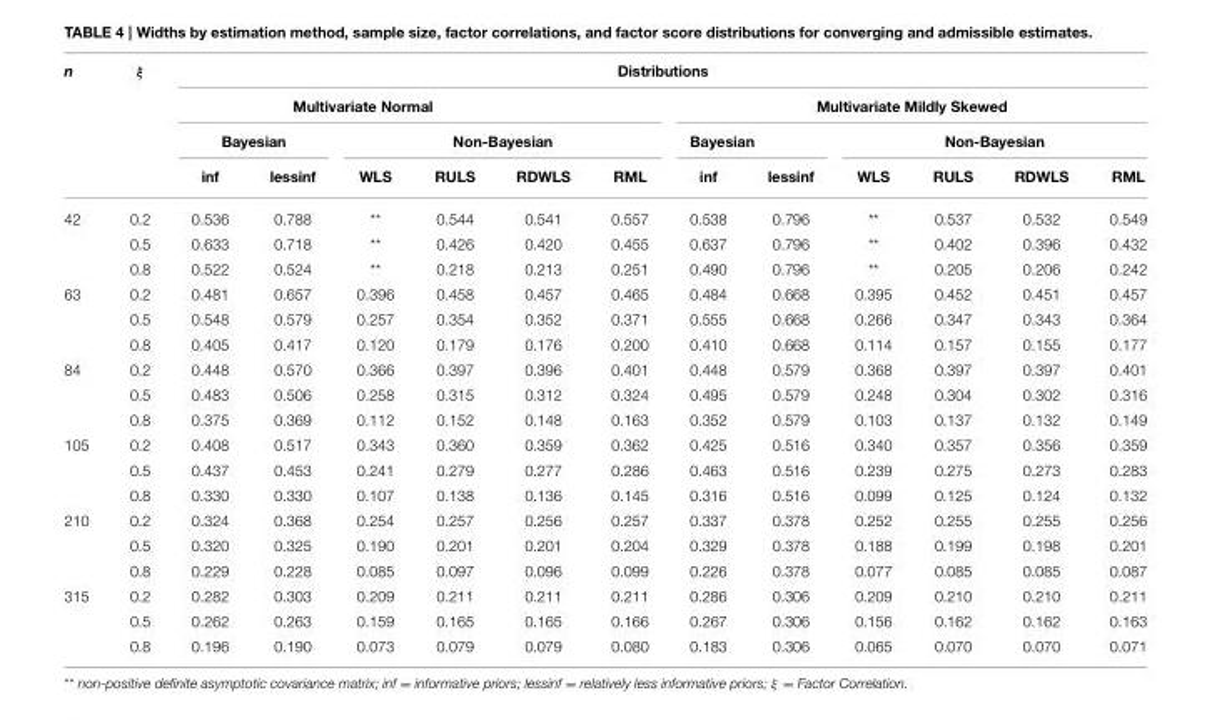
<table><thead><tr><td rowspan="4">n</td><td rowspan="4">ξ</td><td colspan="12">Distributions</td></tr><tr><td colspan="6">Multivariate Normal</td><td colspan="6">Multivariate Mildly Skewed</td></tr><tr><td colspan="2">Bayesian</td><td colspan="4">Non-Bayesian</td><td colspan="2">Bayesian</td><td colspan="4">Non-Bayesian</td></tr><tr><td>inf</td><td>lessinf</td><td>WLS</td><td>RULS</td><td>RDWLS</td><td>RML</td><td>inf</td><td>lessinf</td><td>WLS</td><td>RULS</td><td>RDWLS</td><td>RML</td></tr></thead><tbody><tr><td rowspan="3">42</td><td>0.2</td><td>0.536</td><td>0.788</td><td>**</td><td>0.544</td><td>0.541</td><td>0.557</td><td>0.538</td><td>0.796</td><td>**</td><td>0.537</td><td>0.532</td><td>0.549</td></tr><tr><td>0.5</td><td>0.633</td><td>0.718</td><td>**</td><td>0.426</td><td>0.420</td><td>0.455</td><td>0.637</td><td>0.796</td><td>**</td><td>0.402</td><td>0.396</td><td>0.432</td></tr><tr><td>0.8</td><td>0.522</td><td>0.524</td><td>**</td><td>0.218</td><td>0.213</td><td>0.251</td><td>0.490</td><td>0.796</td><td>**</td><td>0.205</td><td>0.206</td><td>0.242</td></tr><tr><td rowspan="3">63</td><td>0.2</td><td>0.481</td><td>0.657</td><td>0.396</td><td>0.458</td><td>0.457</td><td>0.465</td><td>0.484</td><td>0.668</td><td>0.395</td><td>0.452</td><td>0.451</td><td>0.457</td></tr><tr><td>0.5</td><td>0.548</td><td>0.579</td><td>0.257</td><td>0.354</td><td>0.352</td><td>0.371</td><td>0.555</td><td>0.668</td><td>0.266</td><td>0.347</td><td>0.343</td><td>0.364</td></tr><tr><td>0.8</td><td>0.405</td><td>0.417</td><td>0.120</td><td>0.179</td><td>0.176</td><td>0.200</td><td>0.410</td><td>0.668</td><td>0.114</td><td>0.157</td><td>0.155</td><td>0.177</td></tr><tr><td rowspan="3">84</td><td>0.2</td><td>0.448</td><td>0.570</td><td>0.366</td><td>0.397</td><td>0.396</td><td>0.401</td><td>0.448</td><td>0.579</td><td>0.368</td><td>0.397</td><td>0.397</td><td>0.401</td></tr><tr><td>0.5</td><td>0.483</td><td>0.506</td><td>0.258</td><td>0.315</td><td>0.312</td><td>0.324</td><td>0.495</td><td>0.579</td><td>0.248</td><td>0.304</td><td>0.302</td><td>0.316</td></tr><tr><td>0.8</td><td>0.375</td><td>0.369</td><td>0.112</td><td>0.152</td><td>0.148</td><td>0.163</td><td>0.352</td><td>0.579</td><td>0.103</td><td>0.137</td><td>0.132</td><td>0.149</td></tr><tr><td rowspan="3">105</td><td>0.2</td><td>0.408</td><td>0.517</td><td>0.343</td><td>0.360</td><td>0.359</td><td>0.362</td><td>0.425</td><td>0.516</td><td>0.340</td><td>0.357</td><td>0.356</td><td>0.359</td></tr><tr><td>0.5</td><td>0.437</td><td>0.453</td><td>0.241</td><td>0.279</td><td>0.277</td><td>0.286</td><td>0.463</td><td>0.516</td><td>0.239</td><td>0.275</td><td>0.273</td><td>0.283</td></tr><tr><td>0.8</td><td>0.330</td><td>0.330</td><td>0.107</td><td>0.138</td><td>0.136</td><td>0.145</td><td>0.316</td><td>0.516</td><td>0.099</td><td>0.125</td><td>0.124</td><td>0.132</td></tr><tr><td rowspan="3">210</td><td>0.2</td><td>0.324</td><td>0.368</td><td>0.254</td><td>0.257</td><td>0.256</td><td>0.257</td><td>0.337</td><td>0.378</td><td>0.252</td><td>0.255</td><td>0.255</td><td>0.256</td></tr><tr><td>0.5</td><td>0.320</td><td>0.325</td><td>0.190</td><td>0.201</td><td>0.201</td><td>0.204</td><td>0.329</td><td>0.378</td><td>0.188</td><td>0.199</td><td>0.198</td><td>0.201</td></tr><tr><td>0.8</td><td>0.229</td><td>0.228</td><td>0.085</td><td>0.097</td><td>0.096</td><td>0.099</td><td>0.226</td><td>0.378</td><td>0.077</td><td>0.085</td><td>0.085</td><td>0.087</td></tr><tr><td rowspan="3">315</td><td>0.2</td><td>0.282</td><td>0.303</td><td>0.209</td><td>0.211</td><td>0.211</td><td>0.211</td><td>0.286</td><td>0.306</td><td>0.209</td><td>0.210</td><td>0.210</td><td>0.211</td></tr><tr><td>0.5</td><td>0.262</td><td>0.263</td><td>0.159</td><td>0.165</td><td>0.165</td><td>0.166</td><td>0.267</td><td>0.306</td><td>0.156</td><td>0.162</td><td>0.162</td><td>0.163</td></tr><tr><td>0.8</td><td>0.196</td><td>0.190</td><td>0.073</td><td>0.079</td><td>0.079</td><td>0.080</td><td>0.183</td><td>0.306</td><td>0.065</td><td>0.070</td><td>0.070</td><td>0.071</td></tr></tbody></table>